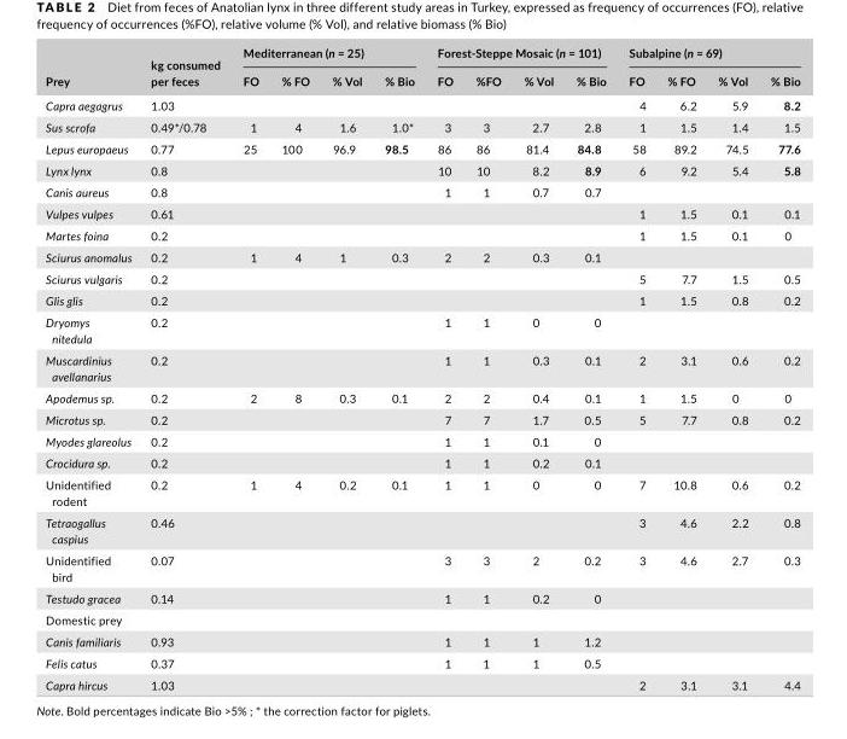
<table><thead><tr><td rowspan="2">Prey</td><td rowspan="2">kg consumed per feces</td><td colspan="4">Mediterranean (n = 25)</td><td colspan="4">Forest- Steppe Mosaic (n = 101)</td><td colspan="4">Subalpine (n = 69)</td></tr><tr><td>FO</td><td>% FO</td><td>% Vol</td><td>% Bio</td><td>FO</td><td>%FO</td><td>% Vol</td><td>% Bio</td><td>FO</td><td>% FO</td><td>% Vol</td><td>% Bio</td></tr></thead><tbody><tr><td>Capra aegagrus</td><td>1.03</td><td></td><td></td><td></td><td></td><td></td><td></td><td></td><td></td><td>4</td><td>6.2</td><td>5.9</td><td>8.2</td></tr><tr><td>Sus scrofa</td><td>0.49*/0.78</td><td>1</td><td>4</td><td>1.6</td><td>1.0*</td><td>3</td><td>3</td><td>2.7</td><td>2.8</td><td>1</td><td>1.5</td><td>1.4</td><td>1.5</td></tr><tr><td>Lepus europaeus</td><td>0.77</td><td>25</td><td>100</td><td>96.9</td><td>98.5</td><td>86</td><td>86</td><td>81.4</td><td>84.8</td><td>58</td><td>89.2</td><td>74.5</td><td>77.6</td></tr><tr><td>Lynx lynx</td><td>0.8</td><td></td><td></td><td></td><td></td><td>10</td><td>10</td><td>8.2</td><td>8.9</td><td>6</td><td>9.2</td><td>5.4</td><td>5.8</td></tr><tr><td>Canis aureus</td><td>0.8</td><td></td><td></td><td></td><td></td><td>1</td><td>1</td><td>0.7</td><td>0.7</td><td></td><td></td><td></td><td></td></tr><tr><td>Vulpes vulpes</td><td>0.61</td><td></td><td></td><td></td><td></td><td></td><td></td><td></td><td></td><td>1</td><td>1.5</td><td>0.1</td><td>0.1</td></tr><tr><td>Martes foina</td><td>0.2</td><td></td><td></td><td></td><td></td><td></td><td></td><td></td><td></td><td>1</td><td>1.5</td><td>0.1</td><td>0</td></tr><tr><td>Sciurus anomalus</td><td>0.2</td><td>1</td><td>4</td><td>1</td><td>0.3</td><td>2</td><td>2</td><td>0.3</td><td>0.1</td><td></td><td></td><td></td><td></td></tr><tr><td>Sciurus vulgaris</td><td>0.2</td><td></td><td></td><td></td><td></td><td></td><td></td><td></td><td></td><td>5</td><td>7.7</td><td>1.5</td><td>0.5</td></tr><tr><td>Glis glis</td><td>0.2</td><td></td><td></td><td></td><td></td><td></td><td></td><td></td><td></td><td>1</td><td>1.5</td><td>0.8</td><td>0.2</td></tr><tr><td>Dryomys nitedula</td><td>0.2</td><td></td><td></td><td></td><td></td><td>1</td><td>1</td><td>0</td><td>0</td><td></td><td></td><td></td><td></td></tr><tr><td>Muscardinius avellanarius</td><td>0.2</td><td></td><td></td><td></td><td></td><td>1</td><td>1</td><td>0.3</td><td>0.1</td><td>2</td><td>3.1</td><td>0.6</td><td>0.2</td></tr><tr><td>Apodemus sp.</td><td>0.2</td><td>2</td><td>8</td><td>0.3</td><td>0.1</td><td>2</td><td>2</td><td>0.4</td><td>0.1</td><td>1</td><td>1.5</td><td>0</td><td>0</td></tr><tr><td>Microtus sp.</td><td>0.2</td><td></td><td></td><td></td><td></td><td>7</td><td>7</td><td>1.7</td><td>0.5</td><td>5</td><td>7.7</td><td>0.8</td><td>0.2</td></tr><tr><td>Myodes glareolus</td><td>0.2</td><td></td><td></td><td></td><td></td><td>1</td><td>1</td><td>0.1</td><td>0</td><td></td><td></td><td></td><td></td></tr><tr><td>Crocidura sp.</td><td>0.2</td><td></td><td></td><td></td><td></td><td>1</td><td>1</td><td>0.2</td><td>0.1</td><td></td><td></td><td></td><td></td></tr><tr><td>Unidentified rodent</td><td>0.2</td><td>1</td><td>4</td><td>0.2</td><td>0.1</td><td>1</td><td>1</td><td>0</td><td>0</td><td>7</td><td>10.8</td><td>0.6</td><td>0.2</td></tr><tr><td>Tetraogallus caspius</td><td>0.46</td><td></td><td></td><td></td><td></td><td></td><td></td><td></td><td></td><td>3</td><td>4.6</td><td>2.2</td><td>0.8</td></tr><tr><td>Unidentified bird</td><td>0.07</td><td></td><td></td><td></td><td></td><td>3</td><td>3</td><td>2</td><td>0.2</td><td>3</td><td>4.6</td><td>2.7</td><td>0.3</td></tr><tr><td>Testudo gracea</td><td>0.14</td><td></td><td></td><td></td><td></td><td>1</td><td>1</td><td>0.2</td><td>0</td><td></td><td></td><td></td><td></td></tr><tr><td colspan="14">Domestic prey</td></tr><tr><td>Canis familiaris</td><td>0.93</td><td></td><td></td><td></td><td></td><td>1</td><td>1</td><td>1</td><td>1.2</td><td></td><td></td><td></td><td></td></tr><tr><td>Felis catus</td><td>0.37</td><td></td><td></td><td></td><td></td><td>1</td><td>1</td><td>1</td><td>0.5</td><td></td><td></td><td></td><td></td></tr><tr><td>Capra hircus</td><td>1.03</td><td></td><td></td><td></td><td></td><td></td><td></td><td></td><td></td><td>2</td><td>3.1</td><td>3.1</td><td>4.4</td></tr></tbody></table>